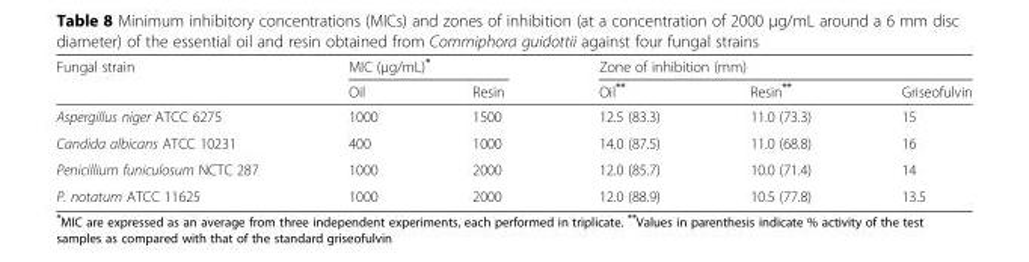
<table><thead><tr><td rowspan="2">Fungal strain</td><td colspan="2">MIC (μg/mL)*</td><td colspan="3">Zone of inhibition (mm)</td></tr><tr><td>Oil</td><td>Resin</td><td>Oil**</td><td>Resin**</td><td>Griseofulvin</td></tr></thead><tbody><tr><td>Aspergillus niger ATCC 6275</td><td>1000</td><td>1500</td><td>12.5 (83.3)</td><td>11.0 (73.3)</td><td>15</td></tr><tr><td>Candida albicans ATCC 10231</td><td>400</td><td>1000</td><td>14.0 (87.5)</td><td>11.0 (68.8)</td><td>16</td></tr><tr><td>Penicillium funiculosum NCTC 287</td><td>1000</td><td>2000</td><td>12.0 (85.7)</td><td>10.0 (71.4)</td><td>14</td></tr><tr><td>P. notatum ATCC 11625</td><td>1000</td><td>2000</td><td>12.0 (88.9)</td><td>10.5 (77.8)</td><td>13.5</td></tr></tbody></table>